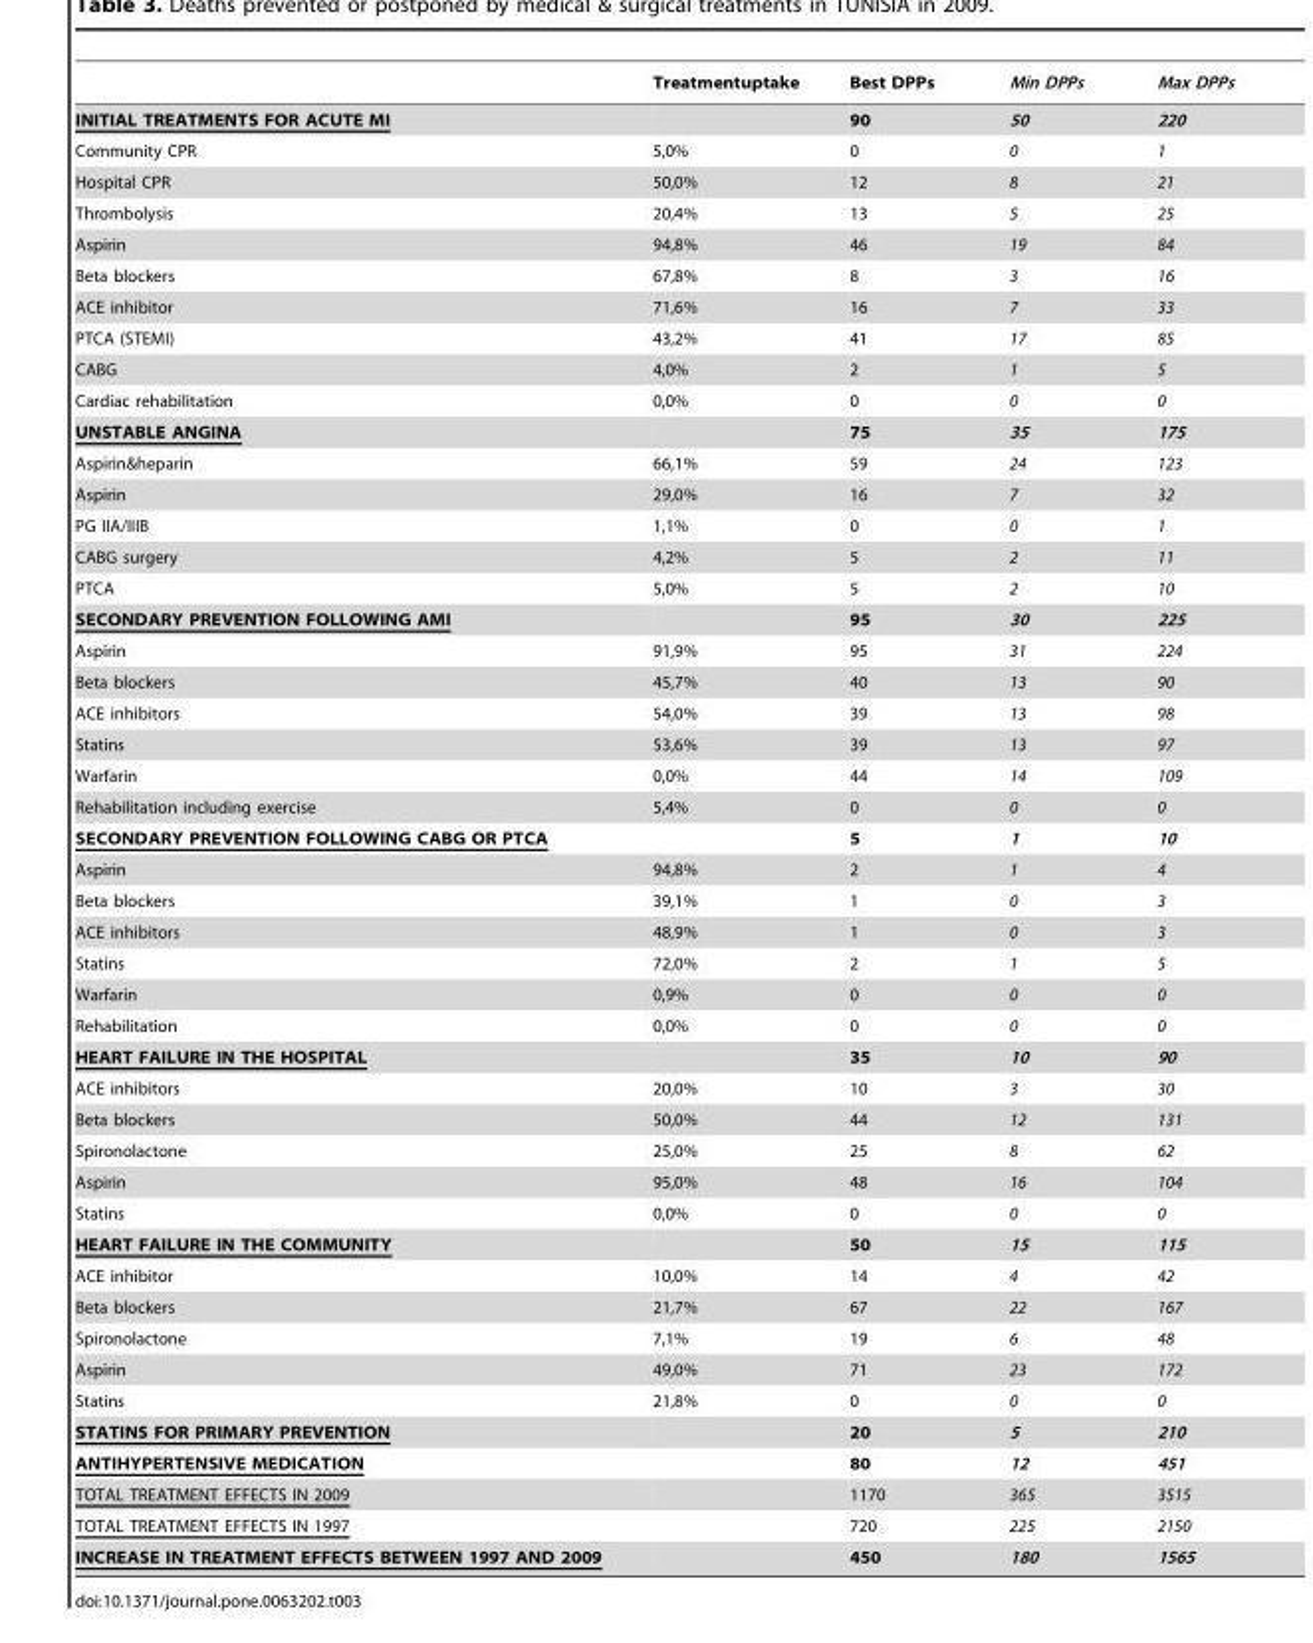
<table><thead><tr><td></td><td>Treatmentuptake</td><td>Best DPPs</td><td>Min DPPs</td><td>Max DPPs</td></tr></thead><tbody><tr><td>INITIAL TREATMENTS FOR ACUTE MI</td><td></td><td>90</td><td>50</td><td>220</td></tr><tr><td>Community CPR</td><td>5,0%</td><td>0</td><td>0</td><td>1</td></tr><tr><td>Hospital CPR</td><td>50,0%</td><td>12</td><td>8</td><td>21</td></tr><tr><td>Thrombolysis</td><td>20,4%</td><td>13</td><td>5</td><td>25</td></tr><tr><td>Aspirin</td><td>94,8%</td><td>46</td><td>19</td><td>84</td></tr><tr><td>Beta blockers</td><td>67,8%</td><td>8</td><td>3</td><td>16</td></tr><tr><td>ACE inhibitor</td><td>71,6%</td><td>16</td><td>7</td><td>33</td></tr><tr><td>PTCA (STEMI)</td><td>43,2%</td><td>41</td><td>17</td><td>85</td></tr><tr><td>CABG</td><td>4,0%</td><td>2</td><td>1</td><td>5</td></tr><tr><td>Cardiac rehabilitation</td><td>0,0%</td><td>0</td><td>0</td><td>0</td></tr><tr><td>UNSTABLE ANGINA</td><td></td><td>75</td><td>35</td><td>175</td></tr><tr><td>Aspirin&amp;heparin</td><td>66,1%</td><td>59</td><td>24</td><td>123</td></tr><tr><td>Aspirin</td><td>29,0%</td><td>16</td><td>7</td><td>32</td></tr><tr><td>PG IIA/IIIB</td><td>1,1%</td><td>0</td><td>0</td><td>1</td></tr><tr><td>CABG surgery</td><td>4,2%</td><td>5</td><td>2</td><td>11</td></tr><tr><td>PTCA</td><td>5,0%</td><td>5</td><td>2</td><td>10</td></tr><tr><td>SECONDARY PREVENTION FOLLOWING AMI</td><td></td><td>95</td><td>30</td><td>225</td></tr><tr><td>Aspirin</td><td>91,9%</td><td>95</td><td>31</td><td>224</td></tr><tr><td>Beta blockers</td><td>45,7%</td><td>40</td><td>13</td><td>90</td></tr><tr><td>ACE inhibitors</td><td>54,0%</td><td>39</td><td>13</td><td>98</td></tr><tr><td>Statins</td><td>53,6%</td><td>39</td><td>13</td><td>97</td></tr><tr><td>Warfarin</td><td>0,0%</td><td>44</td><td>14</td><td>109</td></tr><tr><td>Rehabilitation including exercise</td><td>5,4%</td><td>0</td><td>0</td><td>0</td></tr><tr><td>SECONDARY PREVENTION FOLLOWING CABG OR PTCA</td><td></td><td>5</td><td>1</td><td>10</td></tr><tr><td>Aspirin</td><td>94,8%</td><td>2</td><td>1</td><td>4</td></tr><tr><td>Beta blockers</td><td>39,1%</td><td>1</td><td>0</td><td>3</td></tr><tr><td>ACE inhibitors</td><td>48,9%</td><td>1</td><td>0</td><td>3</td></tr><tr><td>Statins</td><td>72,0%</td><td>2</td><td>1</td><td>5</td></tr><tr><td>Warfarin</td><td>0,9%</td><td>0</td><td>0</td><td>0</td></tr><tr><td>Rehabilitation</td><td>0,0%</td><td>0</td><td>0</td><td>0</td></tr><tr><td>HEART FAILURE IN THE HOSPITAL</td><td></td><td>35</td><td>10</td><td>90</td></tr><tr><td>ACE inhibitors</td><td>20,0%</td><td>10</td><td>3</td><td>30</td></tr><tr><td>Beta blockers</td><td>50,0%</td><td>44</td><td>12</td><td>131</td></tr><tr><td>Spironolactone</td><td>25,0%</td><td>25</td><td>8</td><td>62</td></tr><tr><td>Aspirin</td><td>95,0%</td><td>48</td><td>16</td><td>104</td></tr><tr><td>Statins</td><td>0,0%</td><td>0</td><td>0</td><td>0</td></tr><tr><td>HEART FAILURE IN THE COMMUNITY</td><td></td><td>50</td><td>15</td><td>115</td></tr><tr><td>ACE inhibitor</td><td>10,0%</td><td>14</td><td>4</td><td>42</td></tr><tr><td>Beta blockers</td><td>21,7%</td><td>67</td><td>22</td><td>167</td></tr><tr><td>Spironolactone</td><td>7,1%</td><td>19</td><td>6</td><td>48</td></tr><tr><td>Aspirin</td><td>49,0%</td><td>71</td><td>23</td><td>172</td></tr><tr><td>Statins</td><td>21,8%</td><td>0</td><td>0</td><td>0</td></tr><tr><td>STATINS FOR PRIMARY PREVENTION</td><td></td><td>20</td><td>5</td><td>210</td></tr><tr><td>ANTIHYPERTENSIVE MEDICATION</td><td></td><td>80</td><td>12</td><td>451</td></tr><tr><td>TOTAL TREATMENT EFFECTS IN 2009</td><td></td><td>1170</td><td>365</td><td>3515</td></tr><tr><td>TOTAL TREATMENT EFFECTS IN 1997</td><td></td><td>720</td><td>225</td><td>2150</td></tr><tr><td>INCREASE IN TREATMENT EFFECTS BETWEEN 1997 AND 2009</td><td></td><td>450</td><td>180</td><td>1565</td></tr></tbody></table>